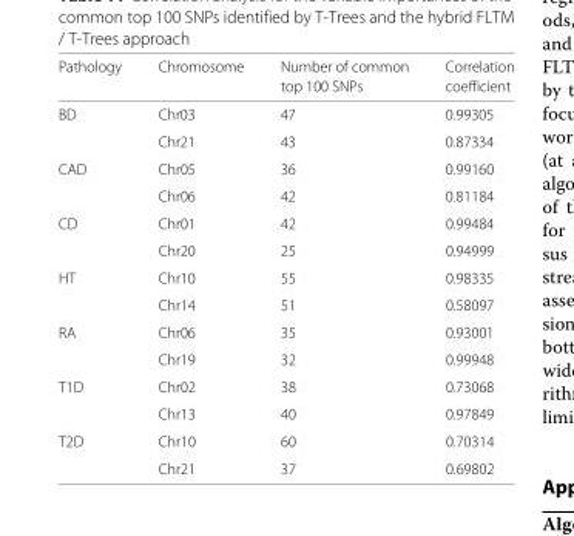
<table><thead><tr><td rowspan="2">Pathology</td><td rowspan="2">Chromosome</td><td rowspan="2">Number of common top 100 SNPs</td><td rowspan="2">Correlation coefficient</td></tr><tr></tr></thead><tbody><tr><td rowspan="2">BD</td><td>Chr03</td><td>47</td><td>0.99305</td></tr><tr><td>Chr21</td><td>43</td><td>0.87334</td></tr><tr><td rowspan="2">CAD</td><td>Chr05</td><td>36</td><td>0.99160</td></tr><tr><td>Chr06</td><td>42</td><td>0.81184</td></tr><tr><td rowspan="2">CD</td><td>Chr01</td><td>42</td><td>0.99484</td></tr><tr><td>Chr20</td><td>25</td><td>0.94999</td></tr><tr><td rowspan="2">HT</td><td>Chr10</td><td>55</td><td>0.98335</td></tr><tr><td>Chr14</td><td>51</td><td>0.58097</td></tr><tr><td rowspan="2">RA</td><td>Chr06</td><td>35</td><td>0.93001</td></tr><tr><td>Chr19</td><td>32</td><td>0.99948</td></tr><tr><td rowspan="2">T1D</td><td>Chr02</td><td>38</td><td>0.73068</td></tr><tr><td>Chr13</td><td>40</td><td>0.97849</td></tr><tr><td rowspan="2">T2D</td><td>Chr10</td><td>60</td><td>0.70314</td></tr><tr><td>Chr21</td><td>37</td><td>0.69802</td></tr></tbody></table>